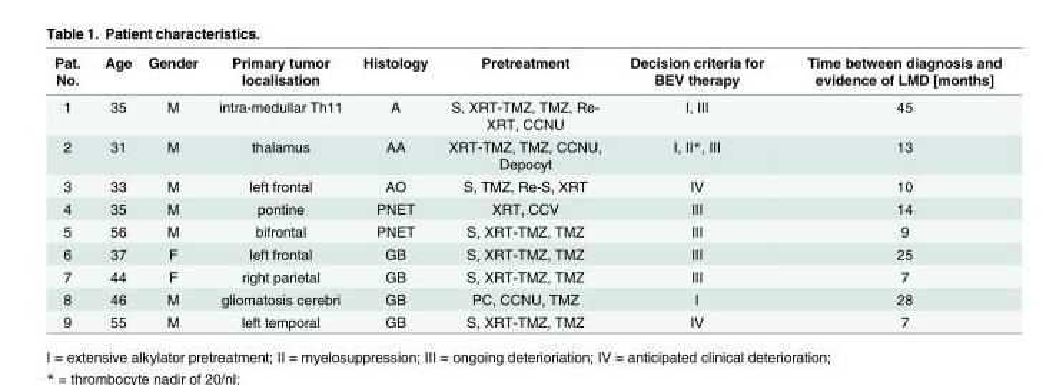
<table><thead><tr><td>Pat. No.</td><td>Age</td><td>Gender</td><td>Primary tumor localisation</td><td>Histology</td><td>Pretreatment</td><td>Decision criteria for BEV therapy</td><td>Time between diagnosis and evidence of LMD [months]</td></tr></thead><tbody><tr><td>1</td><td>35</td><td>M</td><td>intra-medullar Th11</td><td>A</td><td>S, XRT-TMZ, TMZ, Re- XRT, CCNU</td><td>I, III</td><td>45</td></tr><tr><td>2</td><td>31</td><td>M</td><td>thalamus</td><td>AA</td><td>XRT-TMZ, TMZ, CCNU, Depocyt</td><td>I, II*, III</td><td>13</td></tr><tr><td>3</td><td>33</td><td>M</td><td>left frontal</td><td>AO</td><td>S, TMZ, Re-S, XRT</td><td>IV</td><td>10</td></tr><tr><td>4</td><td>35</td><td>M</td><td>pontine</td><td>PNET</td><td>XRT, CCV</td><td>III</td><td>14</td></tr><tr><td>5</td><td>56</td><td>M</td><td>bifrontal</td><td>PNET</td><td>S, XRT-TMZ, TMZ</td><td>III</td><td>9</td></tr><tr><td>6</td><td>37</td><td>F</td><td>left frontal</td><td>GB</td><td>S, XRT-TMZ, TMZ</td><td>III</td><td>25</td></tr><tr><td>7</td><td>44</td><td>F</td><td>right parietal</td><td>GB</td><td>S, XRT-TMZ, TMZ</td><td>III</td><td>7</td></tr><tr><td>8</td><td>46</td><td>M</td><td>gliomatosis cerebri</td><td>GB</td><td>PC, CCNU, TMZ</td><td>I</td><td>28</td></tr><tr><td>9</td><td>55</td><td>M</td><td>left temporal</td><td>GB</td><td>S, XRT-TMZ, TMZ</td><td>IV</td><td>7</td></tr></tbody></table>